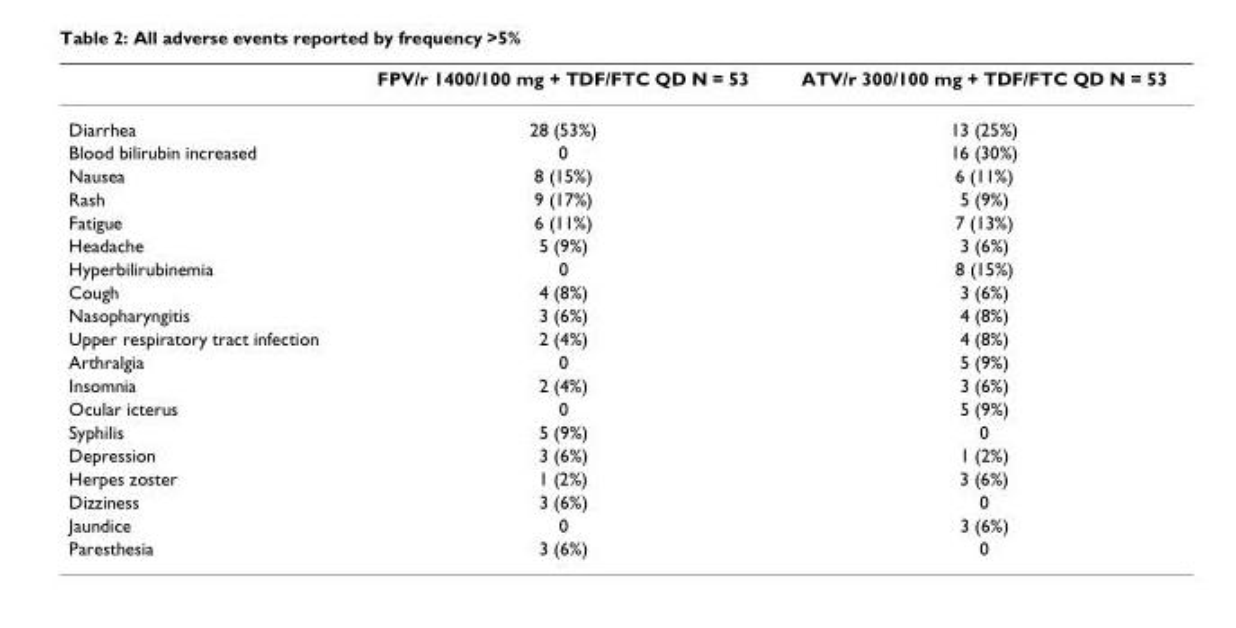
<table><thead><tr><td></td><td>FPV/r 1400/100 mg + TDF/FTC QD N = 53</td><td>ATV/r 300/100 mg + TDF/FTC QD N = 53</td></tr></thead><tbody><tr><td>Diarrhea</td><td>28 (53%)</td><td>13 (25%)</td></tr><tr><td>Blood bilirubin increased</td><td>0</td><td>16 (30%)</td></tr><tr><td>Nausea</td><td>8 (15%)</td><td>6 (11%)</td></tr><tr><td>Rash</td><td>9 (17%)</td><td>5 (9%)</td></tr><tr><td>Fatigue</td><td>6 (11%)</td><td>7 (13%)</td></tr><tr><td>Headache</td><td>5 (9%)</td><td>3 (6%)</td></tr><tr><td>Hyperbilirubinemia</td><td>0</td><td>8 (15%)</td></tr><tr><td>Cough</td><td>4 (8%)</td><td>3 (6%)</td></tr><tr><td>Nasopharyngitis</td><td>3 (6%)</td><td>4 (8%)</td></tr><tr><td>Upper respiratory tract infection</td><td>2 (4%)</td><td>4 (8%)</td></tr><tr><td>Arthralgia</td><td>0</td><td>5 (9%)</td></tr><tr><td>Insomnia</td><td>2 (4%)</td><td>3 (6%)</td></tr><tr><td>Ocular icterus</td><td>0</td><td>5 (9%)</td></tr><tr><td>Syphilis</td><td>5 (9%)</td><td>0</td></tr><tr><td>Depression</td><td>3 (6%)</td><td>1 (2%)</td></tr><tr><td>Herpes zoster</td><td>1 (2%)</td><td>3 (6%)</td></tr><tr><td>Dizziness</td><td>3 (6%)</td><td>0</td></tr><tr><td>Jaundice</td><td>0</td><td>3 (6%)</td></tr><tr><td>Paresthesia</td><td>3 (6%)</td><td>0</td></tr></tbody></table>